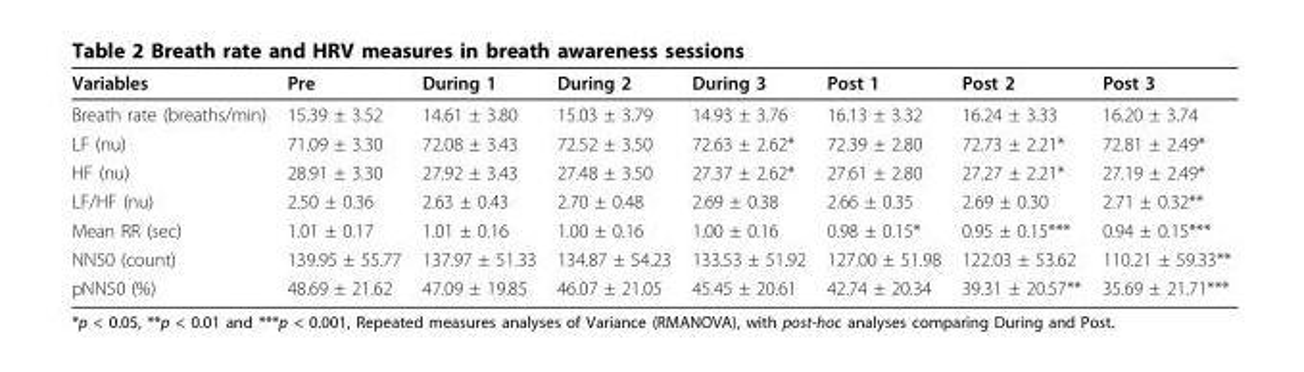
<table><thead><tr><td>Variables</td><td>Pre</td><td>During 1</td><td>During 2</td><td>During 3</td><td>Post 1</td><td>Post 2</td><td>Post 3</td></tr></thead><tbody><tr><td>Breath rate (breaths/min)</td><td>15.39 ± 3.52</td><td>14.61 ± 3.80</td><td>15.03 ± 3.79</td><td>14.93 ± 3.76</td><td>16.13 ± 3.32</td><td>16.24 ± 3.33</td><td>16.20 ± 3.74</td></tr><tr><td>LF (nu)</td><td>71.09 ± 3.30</td><td>72.08 ± 3.43</td><td>72.52 ± 3.50</td><td>72.63 ± 2.62*</td><td>72.39 ± 2.80</td><td>72.73 ± 2.21*</td><td>72.81 ± 2.49*</td></tr><tr><td>HF (nu)</td><td>28.91 ± 3.30</td><td>27.92 ± 3.43</td><td>27.48 ± 3.50</td><td>27.37 ± 2.62*</td><td>27.61 ± 2.80</td><td>27.27 ± 2.21*</td><td>27.19 ± 2.49*</td></tr><tr><td>LF/HF (nu)</td><td>2.50 ± 0.36</td><td>2.63 ± 0.43</td><td>2.70 ± 0.48</td><td>2.69 ± 0.38</td><td>2.66 ± 0.35</td><td>2.69 ± 0.30</td><td>2.71 ± 0.32**</td></tr><tr><td>Mean RR (sec)</td><td>1.01 ± 0.17</td><td>1.01 ± 0.16</td><td>1.00 ± 0.16</td><td>1.00 ± 0.16</td><td>0.98 ± 0.15*</td><td>0.95 ± 0.15***</td><td>0.94 ± 0.15***</td></tr><tr><td>NN50 (count)</td><td>139.95 ± 55.77</td><td>137.97 ± 51.33</td><td>134.87 ± 54.23</td><td>133.53 ± 51.92</td><td>127.00 ± 51.98</td><td>122.03 ± 53.62</td><td>110.21 ± 59.33**</td></tr><tr><td>pNN50 (%)</td><td>48.69 ± 21.62</td><td>47.09 ± 19.85</td><td>46.07 ± 21.05</td><td>45.45 ± 20.61</td><td>42.74 ± 20.34</td><td>39.31 ± 20.57**</td><td>35.69 ± 21.71***</td></tr></tbody></table>